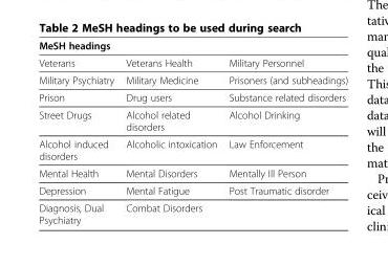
<table><thead><tr><td>MeSH headings</td><td></td><td></td></tr></thead><tbody><tr><td>Veterans</td><td>Veterans Health</td><td>Military Personnel</td></tr><tr><td>Military Psychiatry</td><td>Military Medicine</td><td>Prisoners (and subheadings)</td></tr><tr><td>Prison</td><td>Drug users</td><td>Substance related disorders</td></tr><tr><td>Street Drugs</td><td>Alcohol related disorders</td><td>Alcohol Drinking</td></tr><tr><td>Alcohol induced disorders</td><td>Alcoholic intoxication</td><td>Law Enforcement</td></tr><tr><td>Mental Health</td><td>Mental Disorders</td><td>Mentally Ill Person</td></tr><tr><td>Depression</td><td>Mental Fatigue</td><td>Post Traumatic disorder</td></tr><tr><td>Diagnosis, Dual Psychiatry</td><td>Combat Disorders</td><td></td></tr></tbody></table>